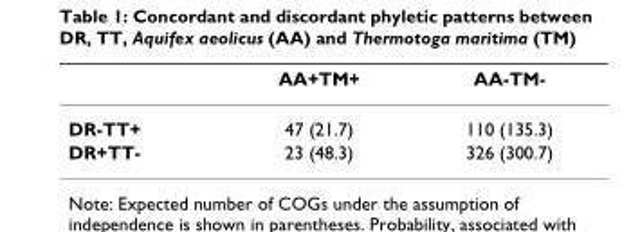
<table><thead><tr><td></td><td>AA+TM+</td><td>AA-TM-</td></tr></thead><tbody><tr><td>DR-TT+</td><td>47 (21.7)</td><td>110 (135.3)</td></tr><tr><td>DR+TT-</td><td>23 (48.3)</td><td>326 (300.7)</td></tr></tbody></table>